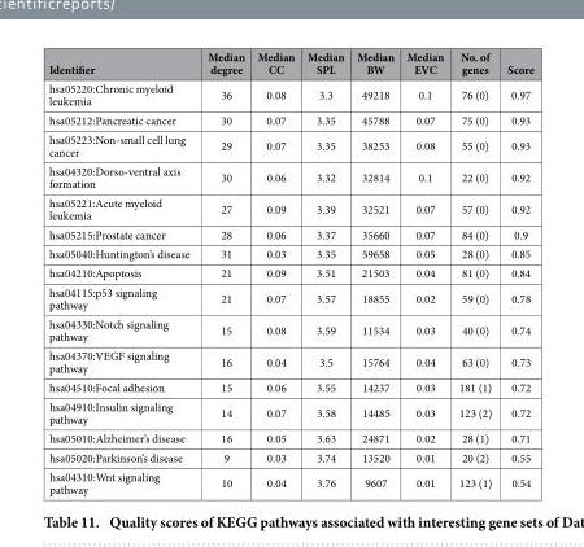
<table><thead><tr><td>Identifier</td><td>Median degree</td><td>Median CC</td><td>Median SPL</td><td>Median BW</td><td>Median EVC</td><td>No. of genes</td><td>Score</td></tr></thead><tbody><tr><td>hsa05220:Chronic myeloid leukemia</td><td>36</td><td>0.08</td><td>3.3</td><td>49218</td><td>0.1</td><td>76 (0)</td><td>0.97</td></tr><tr><td>hsa05212:Pancreatic cancer</td><td>30</td><td>0.07</td><td>3.35</td><td>45788</td><td>0.07</td><td>75 (0)</td><td>0.93</td></tr><tr><td>hsa05223:Non-small cell lung cancer</td><td>29</td><td>0.07</td><td>3.35</td><td>38253</td><td>0.08</td><td>55 (0)</td><td>0.93</td></tr><tr><td>hsa04320:Dorso-ventral axis formation</td><td>30</td><td>0.06</td><td>3.32</td><td>32814</td><td>0.1</td><td>22 (0)</td><td>0.92</td></tr><tr><td>hsa05221:Acute myeloid leukemia</td><td>27</td><td>0.09</td><td>3.39</td><td>32521</td><td>0.07</td><td>57 (0)</td><td>0.92</td></tr><tr><td>hsa05215:Prostate cancer</td><td>28</td><td>0.06</td><td>3.37</td><td>35660</td><td>0.07</td><td>84 (0)</td><td>0.9</td></tr><tr><td>hsa05040:Huntington’s disease</td><td>31</td><td>0.03</td><td>3.35</td><td>59658</td><td>0.05</td><td>28 (0)</td><td>0.85</td></tr><tr><td>hsa04210:Apoptosis</td><td>21</td><td>0.09</td><td>3.51</td><td>21503</td><td>0.04</td><td>81 (0)</td><td>0.84</td></tr><tr><td>hsa04115:p53 signaling pathway</td><td>21</td><td>0.07</td><td>3.57</td><td>18855</td><td>0.02</td><td>59 (0)</td><td>0.78</td></tr><tr><td>hsa04330:Notch signaling pathway</td><td>15</td><td>0.08</td><td>3.59</td><td>11534</td><td>0.03</td><td>40 (0)</td><td>0.74</td></tr><tr><td>hsa04370:VEGF signaling pathway</td><td>16</td><td>0.04</td><td>3.5</td><td>15764</td><td>0.04</td><td>63 (0)</td><td>0.73</td></tr><tr><td>hsa04510:Focal adhesion</td><td>15</td><td>0.06</td><td>3.55</td><td>14237</td><td>0.03</td><td>181 (1)</td><td>0.72</td></tr><tr><td>hsa04910:Insulin signaling pathway</td><td>14</td><td>0.07</td><td>3.58</td><td>14485</td><td>0.03</td><td>123 (2)</td><td>0.72</td></tr><tr><td>hsa05010:Alzheimer’s disease</td><td>16</td><td>0.05</td><td>3.63</td><td>24871</td><td>0.02</td><td>28 (1)</td><td>0.71</td></tr><tr><td>hsa05020:Parkinson’s disease</td><td>9</td><td>0.03</td><td>3.74</td><td>13520</td><td>0.01</td><td>20 (2)</td><td>0.55</td></tr><tr><td>hsa04310:Wnt signaling pathway</td><td>10</td><td>0.04</td><td>3.76</td><td>9607</td><td>0.01</td><td>123 (1)</td><td>0.54</td></tr></tbody></table>